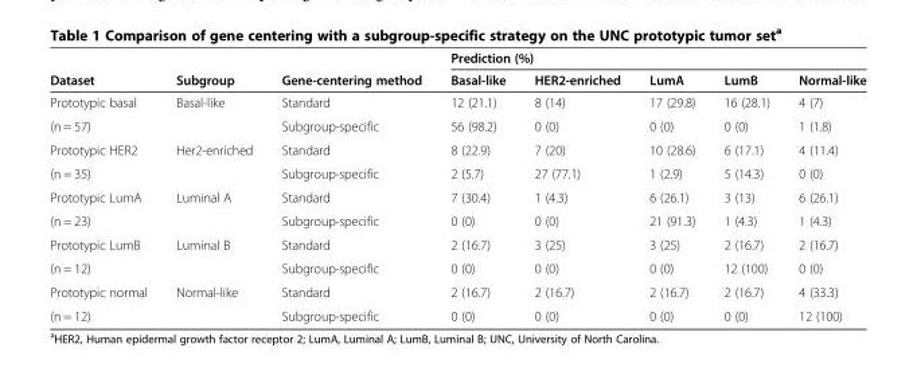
<table><thead><tr><td rowspan="2">Dataset</td><td rowspan="2">Subgroup</td><td rowspan="2">Gene-centering method</td><td colspan="5">Prediction (%)</td></tr><tr><td>Basal-like</td><td>HER2-enriched</td><td>LumA</td><td>LumB</td><td>Normal-like</td></tr></thead><tbody><tr><td>Prototypic basal</td><td>Basal-like</td><td>Standard</td><td>12 (21.1)</td><td>8 (14)</td><td>17 (29.8)</td><td>16 (28.1)</td><td>4 (7)</td></tr><tr><td>(n = 57)</td><td></td><td>Subgroup-specific</td><td>56 (98.2)</td><td>0 (0)</td><td>0 (0)</td><td>0 (0)</td><td>1 (1.8)</td></tr><tr><td>Prototypic HER2</td><td>Her2-enriched</td><td>Standard</td><td>8 (22.9)</td><td>7 (20)</td><td>10 (28.6)</td><td>6 (17.1)</td><td>4 (11.4)</td></tr><tr><td>(n = 35)</td><td></td><td>Subgroup-specific</td><td>2 (5.7)</td><td>27 (77.1)</td><td>1 (2.9)</td><td>5 (14.3)</td><td>0 (0)</td></tr><tr><td>Prototypic LumA</td><td>Luminal A</td><td>Standard</td><td>7 (30.4)</td><td>1 (4.3)</td><td>6 (26.1)</td><td>3 (13)</td><td>6 (26.1)</td></tr><tr><td>(n = 23)</td><td></td><td>Subgroup-specific</td><td>0 (0)</td><td>0 (0)</td><td>21 (91.3)</td><td>1 (4.3)</td><td>1 (4.3)</td></tr><tr><td>Prototypic LumB</td><td>Luminal B</td><td>Standard</td><td>2 (16.7)</td><td>3 (25)</td><td>3 (25)</td><td>2 (16.7)</td><td>2 (16.7)</td></tr><tr><td>(n = 12)</td><td></td><td>Subgroup-specific</td><td>0 (0)</td><td>0 (0)</td><td>0 (0)</td><td>12 (100)</td><td>0 (0)</td></tr><tr><td>Prototypic normal</td><td>Normal-like</td><td>Standard</td><td>2 (16.7)</td><td>2 (16.7)</td><td>2 (16.7)</td><td>2 (16.7)</td><td>4 (33.3)</td></tr><tr><td>(n = 12)</td><td></td><td>Subgroup-specific</td><td>0 (0)</td><td>0 (0)</td><td>0 (0)</td><td>0 (0)</td><td>12 (100)</td></tr></tbody></table>